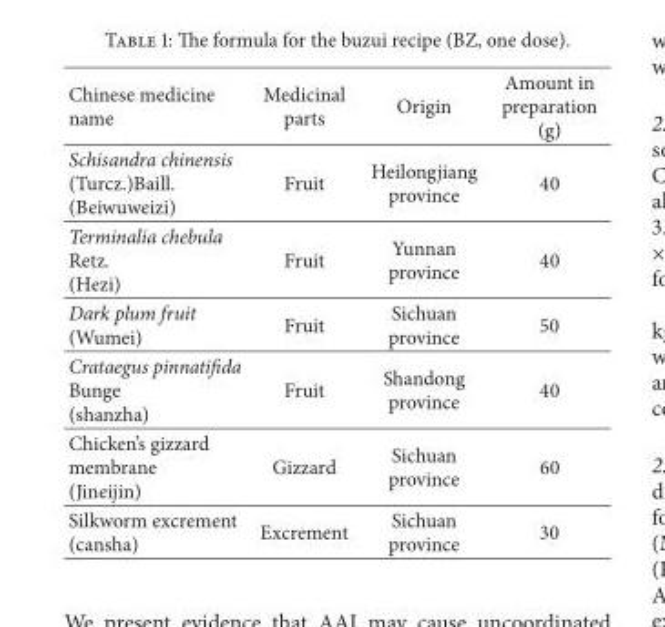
<table><thead><tr><td>Chinese medicine name</td><td>Medicinal parts</td><td>Origin</td><td>Amount in preparation (g)</td></tr></thead><tbody><tr><td>Schisandra chinensis (Turcz.)Baill. (Beiwuweizi)</td><td>Fruit</td><td>Heilongjiang province</td><td>40</td></tr><tr><td>Terminalia chebula Retz. (Hezi)</td><td>Fruit</td><td>Yunnan province</td><td>40</td></tr><tr><td>Dark plum fruit (Wumei)</td><td>Fruit</td><td>Sichuan province</td><td>50</td></tr><tr><td>Crataegus pinnatifida Bunge (shanzha)</td><td>Fruit</td><td>Shandong province</td><td>40</td></tr><tr><td>Chicken’s gizzard membrane (Jineijin)</td><td>Gizzard</td><td>Sichuan province</td><td>60</td></tr><tr><td>Silkworm excrement (cansha)</td><td>Excrement</td><td>Sichuan province</td><td>30</td></tr></tbody></table>